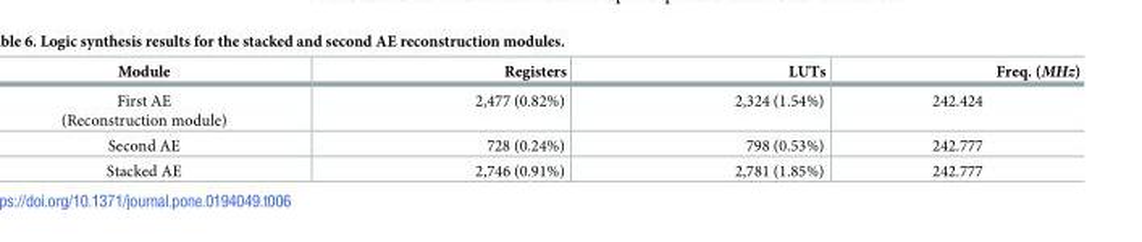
<table><thead><tr><td>Module</td><td>Registers</td><td>LUTs</td><td>Freq. (MHz)</td></tr></thead><tbody><tr><td>First AE (Reconstruction module)</td><td>2,477 (0.82%)</td><td>2,324 (1.54%)</td><td>242.424</td></tr><tr><td>Second AE</td><td>728 (0.24%)</td><td>798 (0.53%)</td><td>242.777</td></tr><tr><td>Stacked AE</td><td>2,746 (0.91%)</td><td>2,781 (1.85%)</td><td>242.777</td></tr></tbody></table>